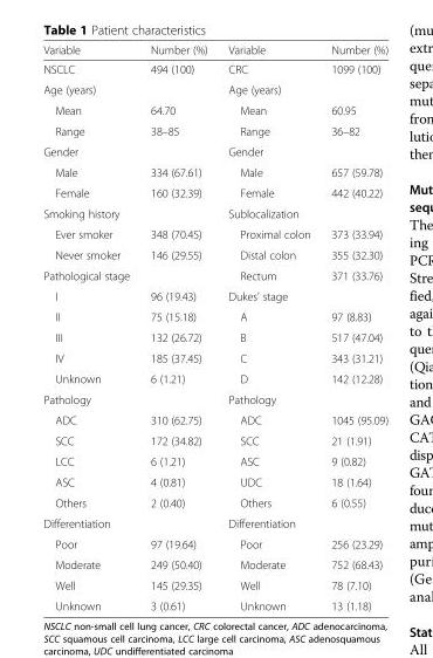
<table><thead><tr><td>Variable</td><td>Number (%)</td><td>Variable</td><td>Number (%)</td></tr></thead><tbody><tr><td>NSCLC</td><td>494 (100)</td><td>CRC</td><td>1099 (100)</td></tr><tr><td>Age (years)</td><td></td><td>Age (years)</td><td></td></tr><tr><td>Mean</td><td>64.70</td><td>Mean</td><td>60.95</td></tr><tr><td>Range</td><td>38–85</td><td>Range</td><td>36–82</td></tr><tr><td>Gender</td><td></td><td>Gender</td><td></td></tr><tr><td>Male</td><td>334 (67.61)</td><td>Male</td><td>657 (59.78)</td></tr><tr><td>Female</td><td>160 (32.39)</td><td>Female</td><td>442 (40.22)</td></tr><tr><td>Smoking history</td><td></td><td>Sublocalization</td><td></td></tr><tr><td>Ever smoker</td><td>348 (70.45)</td><td>Proximal colon</td><td>373 (33.94)</td></tr><tr><td>Never smoker</td><td>146 (29.55)</td><td>Distal colon</td><td>355 (32.30)</td></tr><tr><td>Pathological stage</td><td></td><td>Rectum</td><td>371 (33.76)</td></tr><tr><td>I</td><td>96 (19.43)</td><td>Dukes’ stage</td><td></td></tr><tr><td>II</td><td>75 (15.18)</td><td>A</td><td>97 (8.83)</td></tr><tr><td>III</td><td>132 (26.72)</td><td>B</td><td>517 (47.04)</td></tr><tr><td>IV</td><td>185 (37.45)</td><td>C</td><td>343 (31.21)</td></tr><tr><td>Unknown</td><td>6 (1.21)</td><td>D</td><td>142 (12.28)</td></tr><tr><td>Pathology</td><td></td><td>Pathology</td><td></td></tr><tr><td>ADC</td><td>310 (62.75)</td><td>ADC</td><td>1045 (95.09)</td></tr><tr><td>SCC</td><td>172 (34.82)</td><td>SCC</td><td>21 (1.91)</td></tr><tr><td>LCC</td><td>6 (1.21)</td><td>ASC</td><td>9 (0.82)</td></tr><tr><td>ASC</td><td>4 (0.81)</td><td>UDC</td><td>18 (1.64)</td></tr><tr><td>Others</td><td>2 (0.40)</td><td>Others</td><td>6 (0.55)</td></tr><tr><td>Differentiation</td><td></td><td>Differentiation</td><td></td></tr><tr><td>Poor</td><td>97 (19.64)</td><td>Poor</td><td>256 (23.29)</td></tr><tr><td>Moderate</td><td>249 (50.40)</td><td>Moderate</td><td>752 (68.43)</td></tr><tr><td>Well</td><td>145 (29.35)</td><td>Well</td><td>78 (7.10)</td></tr><tr><td>Unknown</td><td>3 (0.61)</td><td>Unknown</td><td>13 (1.18)</td></tr></tbody></table>